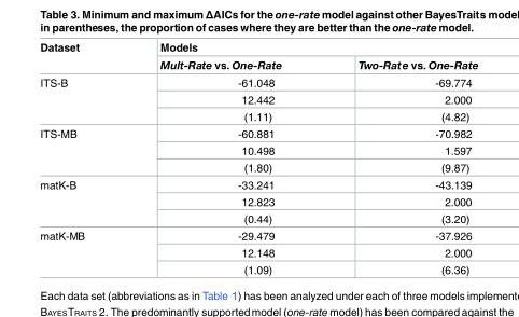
<table><thead><tr><td rowspan="2">Dataset</td><td colspan="2">Models</td></tr><tr><td>Mult-Rate vs. One-Rate</td><td>Two-Rate vs. One-Rate</td></tr></thead><tbody><tr><td rowspan="3">ITS-B</td><td>-61.048</td><td>-69.774</td></tr><tr><td>12.442</td><td>2.000</td></tr><tr><td>(1.11)</td><td>(4.82)</td></tr><tr><td rowspan="3">ITS-MB</td><td>-60.881</td><td>-70.982</td></tr><tr><td>10.498</td><td>1.597</td></tr><tr><td>(1.80)</td><td>(9.87)</td></tr><tr><td rowspan="3">matK-B</td><td>-33.241</td><td>-43.139</td></tr><tr><td>12.823</td><td>2.000</td></tr><tr><td>(0.44)</td><td>(3.20)</td></tr><tr><td rowspan="3">matK-MB</td><td>-29.479</td><td>-37.926</td></tr><tr><td>12.148</td><td>2.000</td></tr><tr><td>(1.09)</td><td>(6.36)</td></tr></tbody></table>